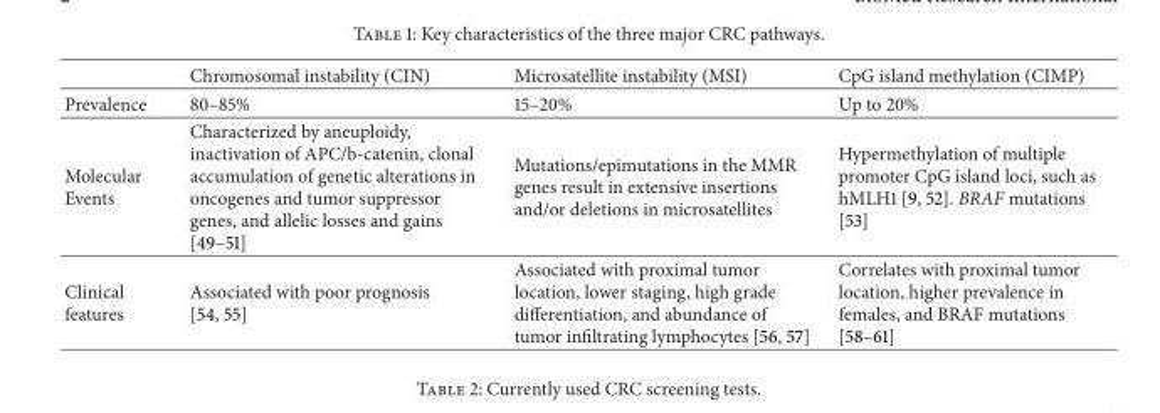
<table><thead><tr><td></td><td>Chromosomal instability (CIN)</td><td>Microsatellite instability (MSI)</td><td>CpG island methylation (CIMP)</td></tr></thead><tbody><tr><td>Prevalence</td><td>80–85%</td><td>15–20%</td><td>Up to 20%</td></tr><tr><td>Molecular Events</td><td>Characterized by aneuploidy, inactivation of APC/b-catenin, clonal accumulation of genetic alterations in oncogenes and tumor suppressor genes, and allelic losses and gains [49–51]</td><td>Mutations/epimutations in the MMR genes result in extensive insertions and/or deletions in microsatellites</td><td>Hypermethylation of multiple promoter CpG island loci, such as hMLH1 [9, 52]. BRAF mutations [53]</td></tr><tr><td>Clinical features</td><td>Associated with poor prognosis [54, 55]</td><td>Associated with proximal tumor location, lower staging, high grade differentiation, and abundance of tumor infiltrating lymphocytes [56, 57]</td><td>Correlates with proximal tumor location, higher prevalence in females, and BRAF mutations [58–61]</td></tr></tbody></table>